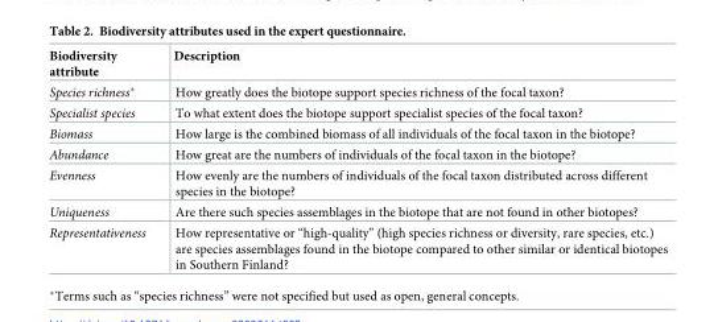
<table><thead><tr><td>Biodiversity attribute</td><td>Description</td></tr></thead><tbody><tr><td>Species richness*</td><td>How greatly does the biotope support species richness of the focal taxon?</td></tr><tr><td>Specialist species</td><td>To what extent does the biotope support specialist species of the focal taxon?</td></tr><tr><td>Biomass</td><td>How large is the combined biomass of all individuals of the focal taxon in the biotope?</td></tr><tr><td>Abundance</td><td>How great are the numbers of individuals of the focal taxon in the biotope?</td></tr><tr><td>Evenness</td><td>How evenly are the numbers of individuals of the focal taxon distributed across different species in the biotope?</td></tr><tr><td>Uniqueness</td><td>Are there such species assemblages in the biotope that are not found in other biotopes?</td></tr><tr><td>Representativeness</td><td>How representative or “high-quality” (high species richness or diversity, rare species, etc.) are species assemblages found in the biotope compared to other similar or identical biotopes in Southern Finland?</td></tr></tbody></table>